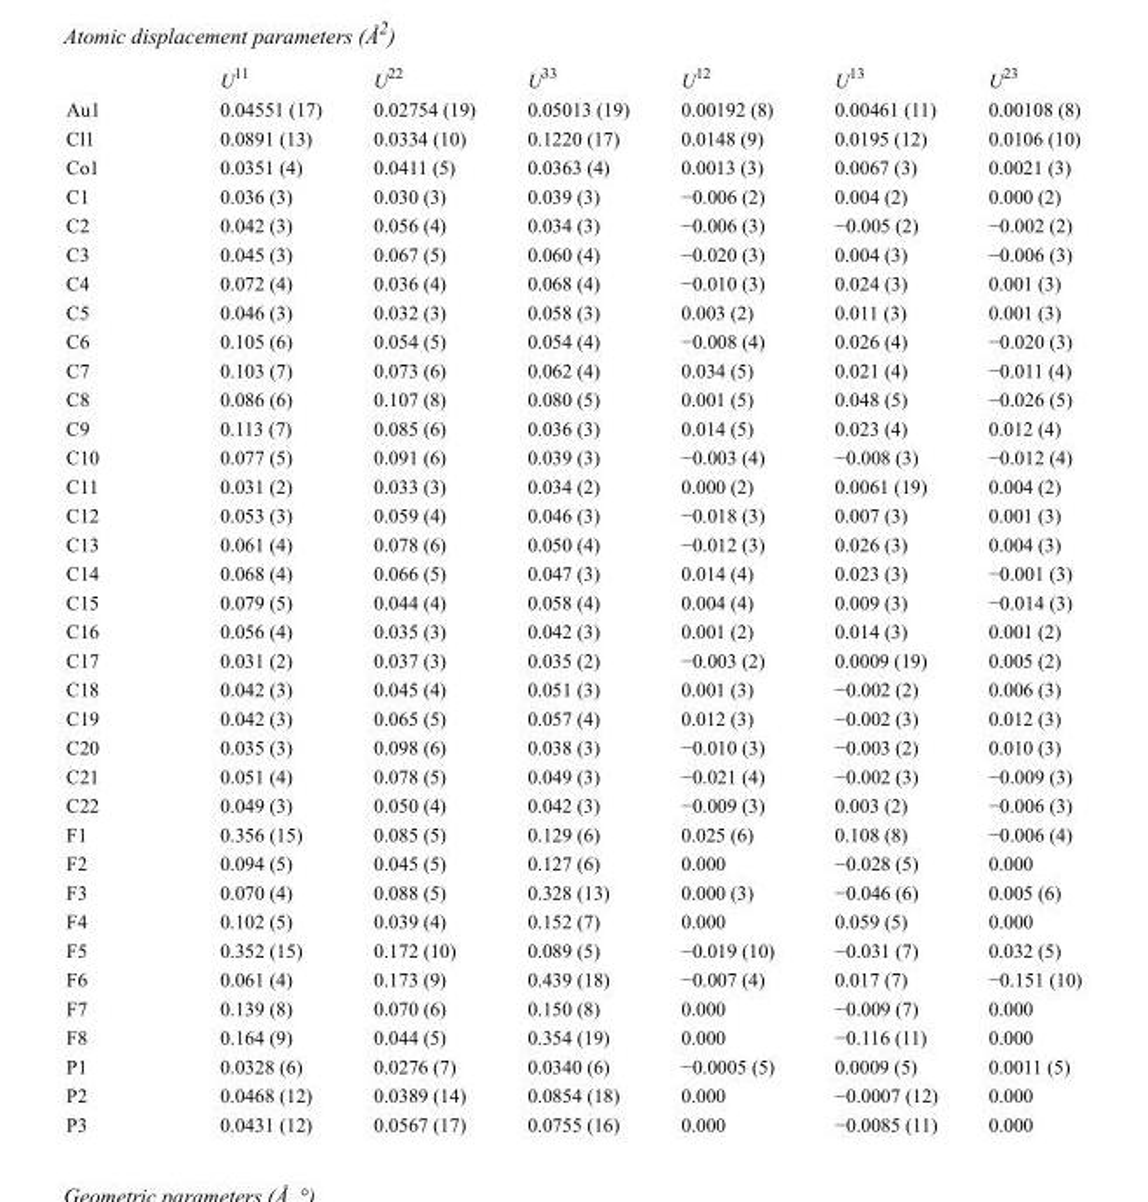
<table><thead><tr><td></td><td>U<sup>11</sup></td><td>U<sup>22</sup></td><td>U<sup>33</sup></td><td>U<sup>12</sup></td><td>U<sup>13</sup></td><td>U<sup>23</sup></td></tr></thead><tbody><tr><td>Au1</td><td>0.04551 (17)</td><td>0.02754 (19)</td><td>0.05013 (19)</td><td>0.00192 (8)</td><td>0.00461 (11)</td><td>0.00108 (8)</td></tr><tr><td>Cl1</td><td>0.0891 (13)</td><td>0.0334 (10)</td><td>0.1220 (17)</td><td>0.0148 (9)</td><td>0.0195 (12)</td><td>0.0106 (10)</td></tr><tr><td>Co1</td><td>0.0351 (4)</td><td>0.0411 (5)</td><td>0.0363 (4)</td><td>0.0013 (3)</td><td>0.0067 (3)</td><td>0.0021 (3)</td></tr><tr><td>C1</td><td>0.036 (3)</td><td>0.030 (3)</td><td>0.039 (3)</td><td>−0.006 (2)</td><td>0.004 (2)</td><td>0.000 (2)</td></tr><tr><td>C2</td><td>0.042 (3)</td><td>0.056 (4)</td><td>0.034 (3)</td><td>−0.006 (3)</td><td>−0.005 (2)</td><td>−0.002 (2)</td></tr><tr><td>C3</td><td>0.045 (3)</td><td>0.067 (5)</td><td>0.060 (4)</td><td>−0.020 (3)</td><td>0.004 (3)</td><td>−0.006 (3)</td></tr><tr><td>C4</td><td>0.072 (4)</td><td>0.036 (4)</td><td>0.068 (4)</td><td>−0.010 (3)</td><td>0.024 (3)</td><td>0.001 (3)</td></tr><tr><td>C5</td><td>0.046 (3)</td><td>0.032 (3)</td><td>0.058 (3)</td><td>0.003 (2)</td><td>0.011 (3)</td><td>0.001 (3)</td></tr><tr><td>C6</td><td>0.105 (6)</td><td>0.054 (5)</td><td>0.054 (4)</td><td>−0.008 (4)</td><td>0.026 (4)</td><td>−0.020 (3)</td></tr><tr><td>C7</td><td>0.103 (7)</td><td>0.073 (6)</td><td>0.062 (4)</td><td>0.034 (5)</td><td>0.021 (4)</td><td>−0.011 (4)</td></tr><tr><td>C8</td><td>0.086 (6)</td><td>0.107 (8)</td><td>0.080 (5)</td><td>0.001 (5)</td><td>0.048 (5)</td><td>−0.026 (5)</td></tr><tr><td>C9</td><td>0.113 (7)</td><td>0.085 (6)</td><td>0.036 (3)</td><td>0.014 (5)</td><td>0.023 (4)</td><td>0.012 (4)</td></tr><tr><td>C10</td><td>0.077 (5)</td><td>0.091 (6)</td><td>0.039 (3)</td><td>−0.003 (4)</td><td>−0.008 (3)</td><td>−0.012 (4)</td></tr><tr><td>C11</td><td>0.031 (2)</td><td>0.033 (3)</td><td>0.034 (2)</td><td>0.000 (2)</td><td>0.0061 (19)</td><td>0.004 (2)</td></tr><tr><td>C12</td><td>0.053 (3)</td><td>0.059 (4)</td><td>0.046 (3)</td><td>−0.018 (3)</td><td>0.007 (3)</td><td>0.001 (3)</td></tr><tr><td>C13</td><td>0.061 (4)</td><td>0.078 (6)</td><td>0.050 (4)</td><td>−0.012 (3)</td><td>0.026 (3)</td><td>0.004 (3)</td></tr><tr><td>C14</td><td>0.068 (4)</td><td>0.066 (5)</td><td>0.047 (3)</td><td>0.014 (4)</td><td>0.023 (3)</td><td>−0.001 (3)</td></tr><tr><td>C15</td><td>0.079 (5)</td><td>0.044 (4)</td><td>0.058 (4)</td><td>0.004 (4)</td><td>0.009 (3)</td><td>−0.014 (3)</td></tr><tr><td>C16</td><td>0.056 (4)</td><td>0.035 (3)</td><td>0.042 (3)</td><td>0.001 (2)</td><td>0.014 (3)</td><td>0.001 (2)</td></tr><tr><td>C17</td><td>0.031 (2)</td><td>0.037 (3)</td><td>0.035 (2)</td><td>−0.003 (2)</td><td>0.0009 (19)</td><td>0.005 (2)</td></tr><tr><td>C18</td><td>0.042 (3)</td><td>0.045 (4)</td><td>0.051 (3)</td><td>0.001 (3)</td><td>−0.002 (2)</td><td>0.006 (3)</td></tr><tr><td>C19</td><td>0.042 (3)</td><td>0.065 (5)</td><td>0.057 (4)</td><td>0.012 (3)</td><td>−0.002 (3)</td><td>0.012 (3)</td></tr><tr><td>C20</td><td>0.035 (3)</td><td>0.098 (6)</td><td>0.038 (3)</td><td>−0.010 (3)</td><td>−0.003 (2)</td><td>0.010 (3)</td></tr><tr><td>C21</td><td>0.051 (4)</td><td>0.078 (5)</td><td>0.049 (3)</td><td>−0.021 (4)</td><td>−0.002 (3)</td><td>−0.009 (3)</td></tr><tr><td>C22</td><td>0.049 (3)</td><td>0.050 (4)</td><td>0.042 (3)</td><td>−0.009 (3)</td><td>0.003 (2)</td><td>−0.006 (3)</td></tr><tr><td>F1</td><td>0.356 (15)</td><td>0.085 (5)</td><td>0.129 (6)</td><td>0.025 (6)</td><td>0.108 (8)</td><td>−0.006 (4)</td></tr><tr><td>F2</td><td>0.094 (5)</td><td>0.045 (5)</td><td>0.127 (6)</td><td>0.000</td><td>−0.028 (5)</td><td>0.000</td></tr><tr><td>F3</td><td>0.070 (4)</td><td>0.088 (5)</td><td>0.328 (13)</td><td>0.000 (3)</td><td>−0.046 (6)</td><td>0.005 (6)</td></tr><tr><td>F4</td><td>0.102 (5)</td><td>0.039 (4)</td><td>0.152 (7)</td><td>0.000</td><td>0.059 (5)</td><td>0.000</td></tr><tr><td>F5</td><td>0.352 (15)</td><td>0.172 (10)</td><td>0.089 (5)</td><td>−0.019 (10)</td><td>−0.031 (7)</td><td>0.032 (5)</td></tr><tr><td>F6</td><td>0.061 (4)</td><td>0.173 (9)</td><td>0.439 (18)</td><td>−0.007 (4)</td><td>0.017 (7)</td><td>−0.151 (10)</td></tr><tr><td>F7</td><td>0.139 (8)</td><td>0.070 (6)</td><td>0.150 (8)</td><td>0.000</td><td>−0.009 (7)</td><td>0.000</td></tr><tr><td>F8</td><td>0.164 (9)</td><td>0.044 (5)</td><td>0.354 (19)</td><td>0.000</td><td>−0.116 (11)</td><td>0.000</td></tr><tr><td>P1</td><td>0.0328 (6)</td><td>0.0276 (7)</td><td>0.0340 (6)</td><td>−0.0005 (5)</td><td>0.0009 (5)</td><td>0.0011 (5)</td></tr><tr><td>P2</td><td>0.0468 (12)</td><td>0.0389 (14)</td><td>0.0854 (18)</td><td>0.000</td><td>−0.0007 (12)</td><td>0.000</td></tr><tr><td>P3</td><td>0.0431 (12)</td><td>0.0567 (17)</td><td>0.0755 (16)</td><td>0.000</td><td>−0.0085 (11)</td><td>0.000</td></tr></tbody></table>